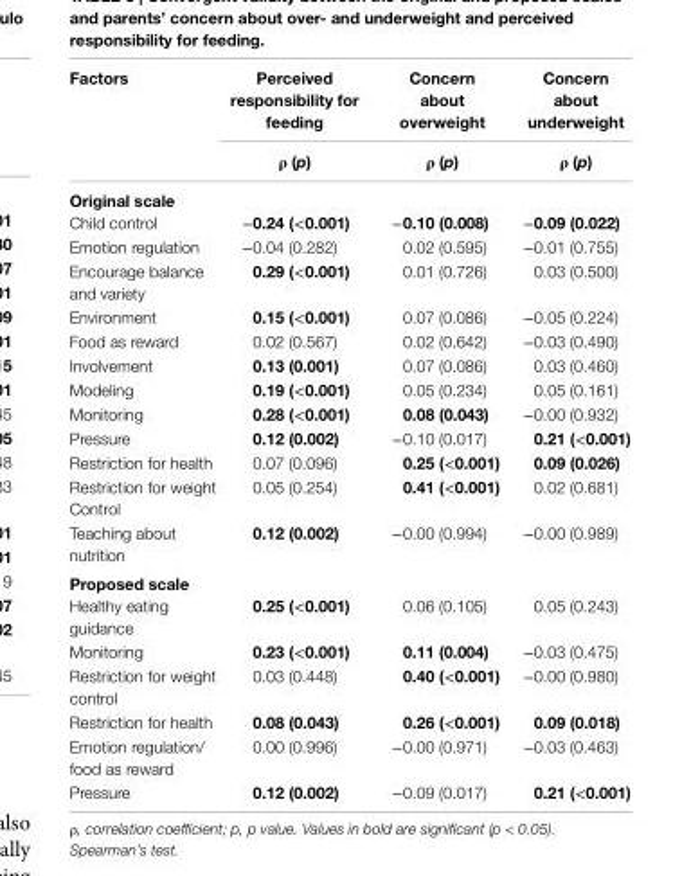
<table><thead><tr><td rowspan="2">Factors</td><td rowspan="2">Perceived responsibility for feeding ρ (p)</td><td rowspan="2">concern about overweight ρ (p)</td><td rowspan="2">concern about underweight ρ (p)</td></tr><tr></tr></thead><tbody><tr><td colspan="4">Original scale</td></tr><tr><td>Child control</td><td>−0.24 (&lt;0.001)</td><td>−0.10 (0.008)</td><td>−0.09 (0.022)</td></tr><tr><td>Emotion regulation</td><td>−0.04 (0.282)</td><td>0.02 (0.595)</td><td>−0.01 (0.755)</td></tr><tr><td>Encourage balance and variety</td><td>0.29 (&lt;0.001)</td><td>0.01 (0.726)</td><td>0.03 (0.500)</td></tr><tr><td>Environment</td><td>0.15 (&lt;0.001)</td><td>0.07 (0.086)</td><td>−0.05 (0.224)</td></tr><tr><td>Food as reward</td><td>0.02 (0.567)</td><td>0.02 (0.642)</td><td>−0.03 (0.490)</td></tr><tr><td>Involvement</td><td>0.13 (0.001)</td><td>0.07 (0.086)</td><td>0.03 (0.460)</td></tr><tr><td>Modeling</td><td>0.19 (&lt;0.001)</td><td>0.05 (0.234)</td><td>0.05 (0.161)</td></tr><tr><td>Monitoring</td><td>0.28 (&lt;0.001)</td><td>0.08 (0.043)</td><td>−0.00 (0.932)</td></tr><tr><td>Pressure</td><td>0.12 (0.002)</td><td>−0.10 (0.017)</td><td>0.21 (&lt;0.001)</td></tr><tr><td>Restriction for health</td><td>0.07 (0.096)</td><td>0.25 (&lt;0.001)</td><td>0.09 (0.026)</td></tr><tr><td>Restriction for weight Control</td><td>0.05 (0.254)</td><td>0.41 (&lt;0.001)</td><td>0.02 (0.681)</td></tr><tr><td>Teaching about nutrition</td><td>0.12 (0.002)</td><td>−0.00 (0.994)</td><td>−0.00 (0.989)</td></tr><tr><td colspan="4">Proposed scale</td></tr><tr><td>Healthy eating guidance</td><td>0.25 (&lt;0.001)</td><td>0.06 (0.105)</td><td>0.05 (0.243)</td></tr><tr><td>Monitoring</td><td>0.23 (&lt;0.001)</td><td>0.11 (0.004)</td><td>−0.03 (0.475)</td></tr><tr><td>Restriction for weight control</td><td>0.03 (0.448)</td><td>0.40 (&lt;0.001)</td><td>−0.00 (0.980)</td></tr><tr><td>Restriction for health</td><td>0.08 (0.043)</td><td>0.26 (&lt;0.001)</td><td>0.09 (0.018)</td></tr><tr><td>Emotion regulation/ food as reward</td><td>0.00 (0.996)</td><td>−0.00 (0.971)</td><td>−0.03 (0.463)</td></tr><tr><td>Pressure</td><td>0.12 (0.002)</td><td>−0.09 (0.017)</td><td>0.21 (&lt;0.001)</td></tr></tbody></table>